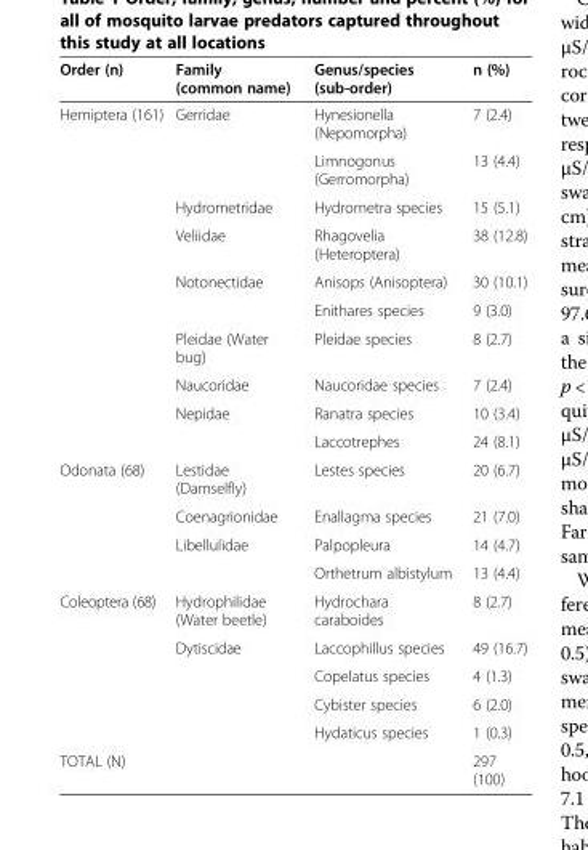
<table><thead><tr><td>Order (n)</td><td>Family (common name)</td><td>Genus/species (sub-order)</td><td>n (%)</td></tr></thead><tbody><tr><td rowspan="10">Hemiptera (161)</td><td>Gerridae</td><td>Hynesionella (Nepomorpha)</td><td>7 (2.4)</td></tr><tr><td></td><td>Limnogonus (Gerromorpha)</td><td>13 (4.4)</td></tr><tr><td>Hydrometridae</td><td>Hydrometra species</td><td>15 (5.1)</td></tr><tr><td>Veliidae</td><td>Rhagovelia (Heteroptera)</td><td>38 (12.8)</td></tr><tr><td>Notonectidae</td><td>Anisops (Anisoptera)</td><td>30 (10.1)</td></tr><tr><td></td><td>Enithares species</td><td>9 (3.0)</td></tr><tr><td>Pleidae (Water bug)</td><td>Pleidae species</td><td>8 (2.7)</td></tr><tr><td>Naucoridae</td><td>Naucoridae species</td><td>7 (2.4)</td></tr><tr><td>Nepidae</td><td>Ranatra species</td><td>10 (3.4)</td></tr><tr><td></td><td>Laccotrephes</td><td>24 (8.1)</td></tr><tr><td rowspan="4">Odonata (68)</td><td>Lestidae (Damselfly)</td><td>Lestes species</td><td>20 (6.7)</td></tr><tr><td>Coenagrionidae</td><td>Enallagma species</td><td>21 (7.0)</td></tr><tr><td>Libellulidae</td><td>Palpopleura</td><td>14 (4.7)</td></tr><tr><td></td><td>Orthetrum albistylum</td><td>13 (4.4)</td></tr><tr><td rowspan="5">Coleoptera (68)</td><td>Hydrophilidae (Water beetle)</td><td>Hydrochara caraboides</td><td>8 (2.7)</td></tr><tr><td>Dytiscidae</td><td>Laccophillus species</td><td>49 (16.7)</td></tr><tr><td></td><td>Copelatus species</td><td>4 (1.3)</td></tr><tr><td></td><td>Cybister species</td><td>6 (2.0)</td></tr><tr><td></td><td>Hydaticus species</td><td>1 (0.3)</td></tr><tr><td>TOTAL (N)</td><td></td><td></td><td>297 (100)</td></tr></tbody></table>